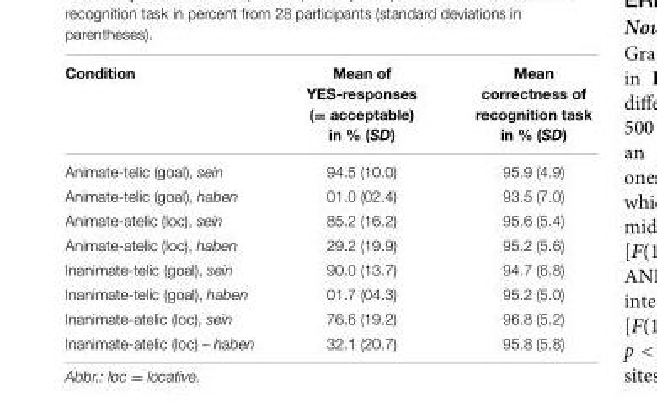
<table><thead><tr><td>Condition</td><td>Mean of YES-responses (= acceptable) in % (SD)</td><td>Mean correctness of recognition task in % (SD)</td></tr></thead><tbody><tr><td>Animate-telic (goal), sein</td><td>94.5 (10.0)</td><td>95.9 (4.9)</td></tr><tr><td>Animate-telic (goal), haben</td><td>01.0 (02.4)</td><td>93.5 (7.0)</td></tr><tr><td>Animate-atelic (loc), sein</td><td>85.2 (16.2)</td><td>95.6 (5.4)</td></tr><tr><td>Animate-atelic (loc), haben</td><td>29.2 (19.9)</td><td>95.2 (5.6)</td></tr><tr><td>Inanimate-telic (goal), sein</td><td>90.0 (13.7)</td><td>94.7 (6.8)</td></tr><tr><td>Inanimate-telic (goal), haben</td><td>01.7 (04.3)</td><td>95.2 (5.0)</td></tr><tr><td>Inanimate-atelic (loc), sein</td><td>76.6 (19.2)</td><td>96.8 (5.2)</td></tr><tr><td>Inanimate-atelic (loc) – haben</td><td>32.1 (20.7)</td><td>95.8 (5.8)</td></tr></tbody></table>